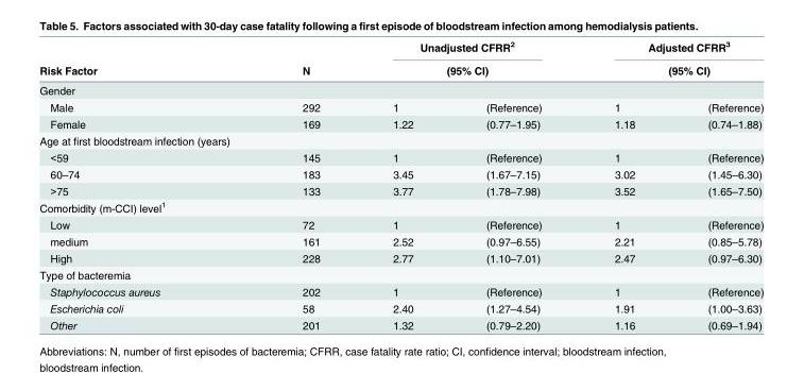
<table><thead><tr><td rowspan="3">Risk Factor Gender</td><td rowspan="3">N</td><td rowspan="2" colspan="2">Unadjusted CFRR<sup>2</sup> (95% CI)</td><td rowspan="2" colspan="2">Adjusted CFRR<sup>3</sup> (95% CI)</td></tr><tr></tr><tr><td></td><td></td><td></td><td></td></tr></thead><tbody><tr><td>Male</td><td>292</td><td>1</td><td>(Reference)</td><td>1</td><td>(Reference)</td></tr><tr><td>Female</td><td>169</td><td>1.22</td><td>(0.77–1.95)</td><td>1.18</td><td>(0.74–1.88)</td></tr><tr><td colspan="6">Age at first bloodstream infection (years)</td></tr><tr><td>&lt;59</td><td>145</td><td>1</td><td>(Reference)</td><td>1</td><td>(Reference)</td></tr><tr><td>60–74</td><td>183</td><td>3.45</td><td>(1.67–7.15)</td><td>3.02</td><td>(1.45–6.30)</td></tr><tr><td>&gt;75</td><td>133</td><td>3.77</td><td>(1.78–7.98)</td><td>3.52</td><td>(1.65–7.50)</td></tr><tr><td colspan="6">Comorbidity (m-CCI) level<sup>1</sup></td></tr><tr><td>Low</td><td>72</td><td>1</td><td>(Reference)</td><td>1</td><td>(Reference)</td></tr><tr><td>medium</td><td>161</td><td>2.52</td><td>(0.97–6.55)</td><td>2.21</td><td>(0.85–5.78)</td></tr><tr><td>High</td><td>228</td><td>2.77</td><td>(1.10–7.01)</td><td>2.47</td><td>(0.97–6.30)</td></tr><tr><td colspan="6">Type of bacteremia</td></tr><tr><td>Staphylococcus aureus</td><td>202</td><td>1</td><td>(Reference)</td><td>1</td><td>(Reference)</td></tr><tr><td>Escherichia coli</td><td>58</td><td>2.40</td><td>(1.27–4.54)</td><td>1.91</td><td>(1.00–3.63)</td></tr><tr><td>Other</td><td>201</td><td>1.32</td><td>(0.79–2.20)</td><td>1.16</td><td>(0.69–1.94)</td></tr></tbody></table>